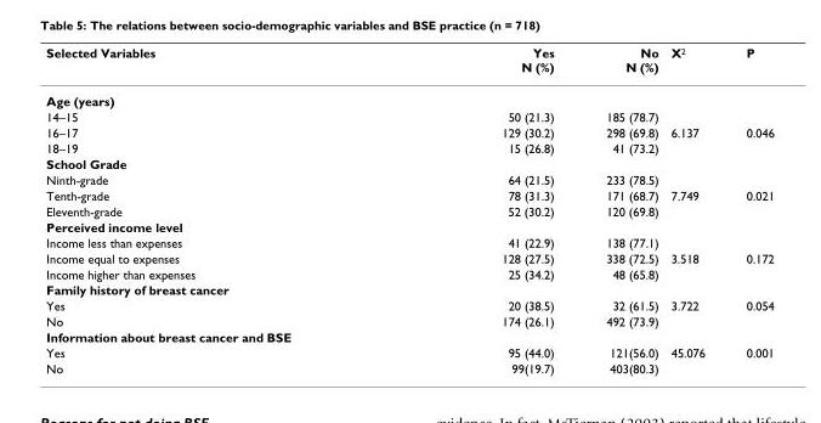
<table><thead><tr><td>Selected Variables</td><td>Yes N (%)</td><td>No N (%)</td><td>X<sup>2</sup></td><td>P</td></tr></thead><tbody><tr><td colspan="5">Age (years)</td></tr><tr><td>14–15</td><td>50 (21.3)</td><td>185 (78.7)</td><td></td><td></td></tr><tr><td>16–17</td><td>129 (30.2)</td><td>298 (69.8)</td><td>6.137</td><td>0.046</td></tr><tr><td>18–19</td><td>15 (26.8)</td><td>41 (73.2)</td><td></td><td></td></tr><tr><td colspan="5">School Grade</td></tr><tr><td>Ninth-grade</td><td>64 (21.5)</td><td>233 (78.5)</td><td></td><td></td></tr><tr><td>Tenth-grade</td><td>78 (31.3)</td><td>171 (68.7)</td><td>7.749</td><td>0.021</td></tr><tr><td>Eleventh-grade</td><td>52 (30.2)</td><td>120 (69.8)</td><td></td><td></td></tr><tr><td colspan="5">Perceived income level</td></tr><tr><td>Income less than expenses</td><td>41 (22.9)</td><td>138 (77.1)</td><td></td><td></td></tr><tr><td>Income equal to expenses</td><td>128 (27.5)</td><td>338 (72.5)</td><td>3.518</td><td>0.172</td></tr><tr><td>Income higher than expenses</td><td>25 (34.2)</td><td>48 (65.8)</td><td></td><td></td></tr><tr><td colspan="5">Family history of breast cancer</td></tr><tr><td>Yes</td><td>20 (38.5)</td><td>32 (61.5)</td><td>3.722</td><td>0.054</td></tr><tr><td>No</td><td>174 (26.1)</td><td>492 (73.9)</td><td></td><td></td></tr><tr><td colspan="5">Information about breast cancer and BSE</td></tr><tr><td>Yes</td><td>95 (44.0)</td><td>121(56.0)</td><td>45.076</td><td>0.001</td></tr><tr><td>No</td><td>99(19.7)</td><td>403(80.3)</td><td></td><td></td></tr></tbody></table>